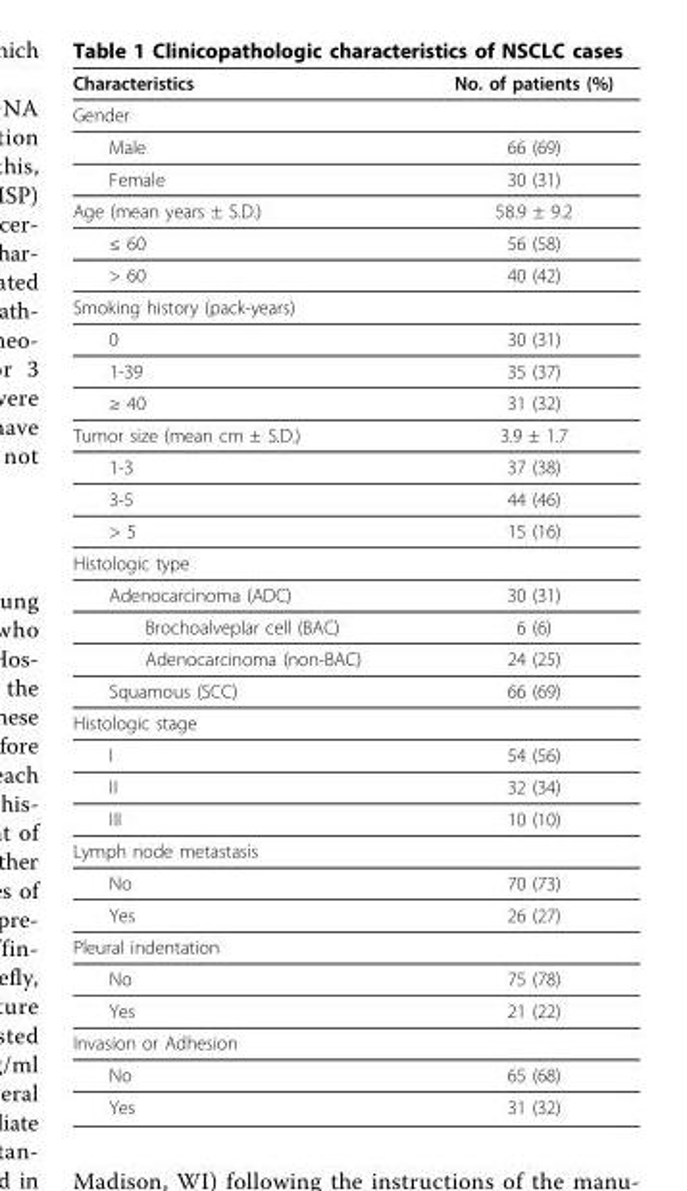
<table><thead><tr><td>Characteristics</td><td>No. of patients (%)</td></tr></thead><tbody><tr><td colspan="2">Gender</td></tr><tr><td>Male</td><td>66 (69)</td></tr><tr><td>Female</td><td>30 (31)</td></tr><tr><td>Age (mean years ± S.D.)</td><td>58.9 ± 9.2</td></tr><tr><td>≤ 60</td><td>56 (58)</td></tr><tr><td>&gt; 60</td><td>40 (42)</td></tr><tr><td colspan="2">Smoking history (pack-years)</td></tr><tr><td>0</td><td>30 (31)</td></tr><tr><td>1-39</td><td>35 (37)</td></tr><tr><td>≥ 40</td><td>31 (32)</td></tr><tr><td>Tumor size (mean cm ± S.D.)</td><td>3.9 ± 1.7</td></tr><tr><td>1-3</td><td>37 (38)</td></tr><tr><td>3-5</td><td>44 (46)</td></tr><tr><td>&gt; 5</td><td>15 (16)</td></tr><tr><td colspan="2">Histologic type</td></tr><tr><td>Adenocarcinoma (ADC)</td><td>30 (31)</td></tr><tr><td>Brochoalveplar cell (BAC)</td><td>6 (6)</td></tr><tr><td>Adenocarcinoma (non-BAC)</td><td>24 (25)</td></tr><tr><td>Squamous (SCC)</td><td>66 (69)</td></tr><tr><td colspan="2">Histologic stage</td></tr><tr><td>I</td><td>54 (56)</td></tr><tr><td>II</td><td>32 (34)</td></tr><tr><td>III</td><td>10 (10)</td></tr><tr><td colspan="2">Lymph node metastasis</td></tr><tr><td>No</td><td>70 (73)</td></tr><tr><td>Yes</td><td>26 (27)</td></tr><tr><td colspan="2">Pleural indentation</td></tr><tr><td>No</td><td>75 (78)</td></tr><tr><td>Yes</td><td>21 (22)</td></tr><tr><td colspan="2">Invasion or Adhesion</td></tr><tr><td>No</td><td>65 (68)</td></tr><tr><td>Yes</td><td>31 (32)</td></tr></tbody></table>